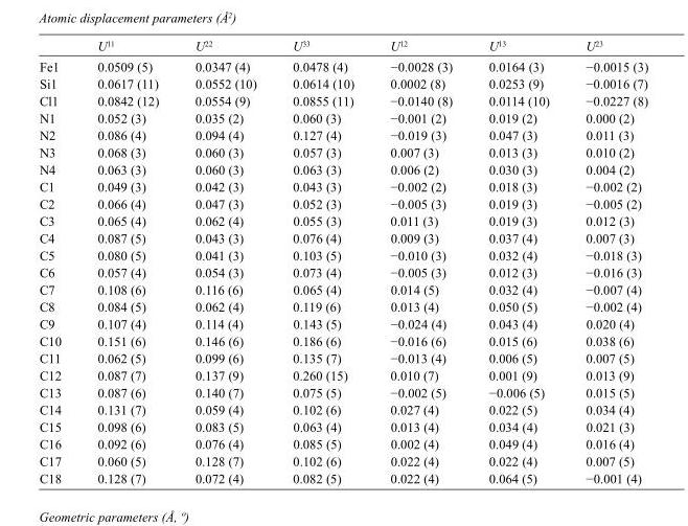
<table><thead><tr><td></td><td>U<sup>11</sup></td><td>U<sup>22</sup></td><td>U<sup>33</sup></td><td>U<sup>12</sup></td><td>U<sup>13</sup></td><td>U<sup>23</sup></td></tr></thead><tbody><tr><td>Fe1</td><td>0.0509 (5)</td><td>0.0347 (4)</td><td>0.0478 (4)</td><td>−0.0028 (3)</td><td>0.0164 (3)</td><td>−0.0015 (3)</td></tr><tr><td>Si1</td><td>0.0617 (11)</td><td>0.0552 (10)</td><td>0.0614 (10)</td><td>0.0002 (8)</td><td>0.0253 (9)</td><td>−0.0016 (7)</td></tr><tr><td>Cl1</td><td>0.0842 (12)</td><td>0.0554 (9)</td><td>0.0855 (11)</td><td>−0.0140 (8)</td><td>0.0114 (10)</td><td>−0.0227 (8)</td></tr><tr><td>N1</td><td>0.052 (3)</td><td>0.035 (2)</td><td>0.060 (3)</td><td>−0.001 (2)</td><td>0.019 (2)</td><td>0.000 (2)</td></tr><tr><td>N2</td><td>0.086 (4)</td><td>0.094 (4)</td><td>0.127 (4)</td><td>−0.019 (3)</td><td>0.047 (3)</td><td>0.011 (3)</td></tr><tr><td>N3</td><td>0.068 (3)</td><td>0.060 (3)</td><td>0.057 (3)</td><td>0.007 (3)</td><td>0.013 (3)</td><td>0.010 (2)</td></tr><tr><td>N4</td><td>0.063 (3)</td><td>0.060 (3)</td><td>0.063 (3)</td><td>0.006 (2)</td><td>0.030 (3)</td><td>0.004 (2)</td></tr><tr><td>C1</td><td>0.049 (3)</td><td>0.042 (3)</td><td>0.043 (3)</td><td>−0.002 (2)</td><td>0.018 (3)</td><td>−0.002 (2)</td></tr><tr><td>C2</td><td>0.066 (4)</td><td>0.047 (3)</td><td>0.052 (3)</td><td>−0.005 (3)</td><td>0.019 (3)</td><td>−0.005 (2)</td></tr><tr><td>C3</td><td>0.065 (4)</td><td>0.062 (4)</td><td>0.055 (3)</td><td>0.011 (3)</td><td>0.019 (3)</td><td>0.012 (3)</td></tr><tr><td>C4</td><td>0.087 (5)</td><td>0.043 (3)</td><td>0.076 (4)</td><td>0.009 (3)</td><td>0.037 (4)</td><td>0.007 (3)</td></tr><tr><td>C5</td><td>0.080 (5)</td><td>0.041 (3)</td><td>0.103 (5)</td><td>−0.010 (3)</td><td>0.032 (4)</td><td>−0.018 (3)</td></tr><tr><td>C6</td><td>0.057 (4)</td><td>0.054 (3)</td><td>0.073 (4)</td><td>−0.005 (3)</td><td>0.012 (3)</td><td>−0.016 (3)</td></tr><tr><td>C7</td><td>0.108 (6)</td><td>0.116 (6)</td><td>0.065 (4)</td><td>0.014 (5)</td><td>0.032 (4)</td><td>−0.007 (4)</td></tr><tr><td>C8</td><td>0.084 (5)</td><td>0.062 (4)</td><td>0.119 (6)</td><td>0.013 (4)</td><td>0.050 (5)</td><td>−0.002 (4)</td></tr><tr><td>C9</td><td>0.107 (4)</td><td>0.114 (4)</td><td>0.143 (5)</td><td>−0.024 (4)</td><td>0.043 (4)</td><td>0.020 (4)</td></tr><tr><td>C10</td><td>0.151 (6)</td><td>0.146 (6)</td><td>0.186 (6)</td><td>−0.016 (6)</td><td>0.015 (6)</td><td>0.038 (6)</td></tr><tr><td>C11</td><td>0.062 (5)</td><td>0.099 (6)</td><td>0.135 (7)</td><td>−0.013 (4)</td><td>0.006 (5)</td><td>0.007 (5)</td></tr><tr><td>C12</td><td>0.087 (7)</td><td>0.137 (9)</td><td>0.260 (15)</td><td>0.010 (7)</td><td>0.001 (9)</td><td>0.013 (9)</td></tr><tr><td>C13</td><td>0.087 (6)</td><td>0.140 (7)</td><td>0.075 (5)</td><td>−0.002 (5)</td><td>−0.006 (5)</td><td>0.015 (5)</td></tr><tr><td>C14</td><td>0.131 (7)</td><td>0.059 (4)</td><td>0.102 (6)</td><td>0.027 (4)</td><td>0.022 (5)</td><td>0.034 (4)</td></tr><tr><td>C15</td><td>0.098 (6)</td><td>0.083 (5)</td><td>0.063 (4)</td><td>0.013 (4)</td><td>0.034 (4)</td><td>0.021 (3)</td></tr><tr><td>C16</td><td>0.092 (6)</td><td>0.076 (4)</td><td>0.085 (5)</td><td>0.002 (4)</td><td>0.049 (4)</td><td>0.016 (4)</td></tr><tr><td>C17</td><td>0.060 (5)</td><td>0.128 (7)</td><td>0.102 (6)</td><td>0.022 (4)</td><td>0.022 (4)</td><td>0.007 (5)</td></tr><tr><td>C18</td><td>0.128 (7)</td><td>0.072 (4)</td><td>0.082 (5)</td><td>0.022 (4)</td><td>0.064 (5)</td><td>−0.001 (4)</td></tr></tbody></table>